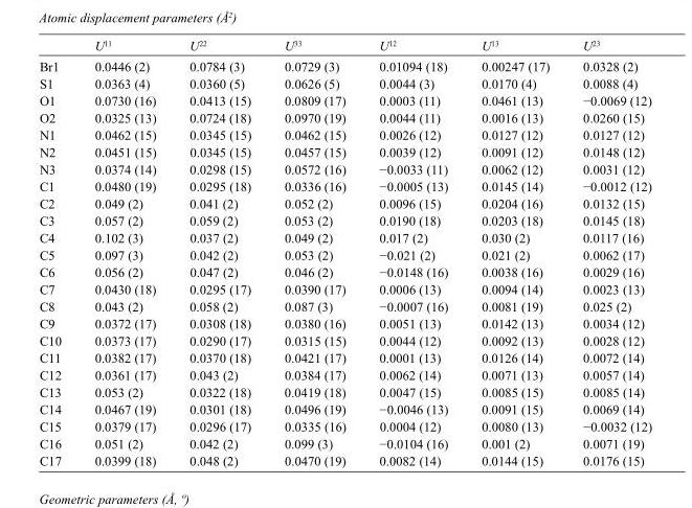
<table><thead><tr><td></td><td>U<sup>11</sup></td><td>U<sup>22</sup></td><td>U<sup>33</sup></td><td>U<sup>12</sup></td><td>U<sup>13</sup></td><td>U<sup>23</sup></td></tr></thead><tbody><tr><td>Br1</td><td>0.0446 (2)</td><td>0.0784 (3)</td><td>0.0729 (3)</td><td>0.01094 (18)</td><td>0.00247 (17)</td><td>0.0328 (2)</td></tr><tr><td>S1</td><td>0.0363 (4)</td><td>0.0360 (5)</td><td>0.0626 (5)</td><td>0.0044 (3)</td><td>0.0170 (4)</td><td>0.0088 (4)</td></tr><tr><td>O1</td><td>0.0730 (16)</td><td>0.0413 (15)</td><td>0.0809 (17)</td><td>0.0003 (11)</td><td>0.0461 (13)</td><td>−0.0069 (12)</td></tr><tr><td>O2</td><td>0.0325 (13)</td><td>0.0724 (18)</td><td>0.0970 (19)</td><td>0.0044 (11)</td><td>0.0016 (13)</td><td>0.0260 (15)</td></tr><tr><td>N1</td><td>0.0462 (15)</td><td>0.0345 (15)</td><td>0.0462 (15)</td><td>0.0026 (12)</td><td>0.0127 (12)</td><td>0.0127 (12)</td></tr><tr><td>N2</td><td>0.0451 (15)</td><td>0.0345 (15)</td><td>0.0457 (15)</td><td>0.0039 (12)</td><td>0.0091 (12)</td><td>0.0148 (12)</td></tr><tr><td>N3</td><td>0.0374 (14)</td><td>0.0298 (15)</td><td>0.0572 (16)</td><td>−0.0033 (11)</td><td>0.0062 (12)</td><td>0.0031 (12)</td></tr><tr><td>C1</td><td>0.0480 (19)</td><td>0.0295 (18)</td><td>0.0336 (16)</td><td>−0.0005 (13)</td><td>0.0145 (14)</td><td>−0.0012 (12)</td></tr><tr><td>C2</td><td>0.049 (2)</td><td>0.041 (2)</td><td>0.052 (2)</td><td>0.0096 (15)</td><td>0.0204 (16)</td><td>0.0132 (15)</td></tr><tr><td>C3</td><td>0.057 (2)</td><td>0.059 (2)</td><td>0.053 (2)</td><td>0.0190 (18)</td><td>0.0203 (18)</td><td>0.0145 (18)</td></tr><tr><td>C4</td><td>0.102 (3)</td><td>0.037 (2)</td><td>0.049 (2)</td><td>0.017 (2)</td><td>0.030 (2)</td><td>0.0117 (16)</td></tr><tr><td>C5</td><td>0.097 (3)</td><td>0.042 (2)</td><td>0.053 (2)</td><td>−0.021 (2)</td><td>0.021 (2)</td><td>0.0062 (17)</td></tr><tr><td>C6</td><td>0.056 (2)</td><td>0.047 (2)</td><td>0.046 (2)</td><td>−0.0148 (16)</td><td>0.0038 (16)</td><td>0.0029 (16)</td></tr><tr><td>C7</td><td>0.0430 (18)</td><td>0.0295 (17)</td><td>0.0390 (17)</td><td>0.0006 (13)</td><td>0.0094 (14)</td><td>0.0023 (13)</td></tr><tr><td>C8</td><td>0.043 (2)</td><td>0.058 (2)</td><td>0.087 (3)</td><td>−0.0007 (16)</td><td>0.0081 (19)</td><td>0.025 (2)</td></tr><tr><td>C9</td><td>0.0372 (17)</td><td>0.0308 (18)</td><td>0.0380 (16)</td><td>0.0051 (13)</td><td>0.0142 (13)</td><td>0.0034 (12)</td></tr><tr><td>C10</td><td>0.0373 (17)</td><td>0.0290 (17)</td><td>0.0315 (15)</td><td>0.0044 (12)</td><td>0.0092 (13)</td><td>0.0028 (12)</td></tr><tr><td>C11</td><td>0.0382 (17)</td><td>0.0370 (18)</td><td>0.0421 (17)</td><td>0.0001 (13)</td><td>0.0126 (14)</td><td>0.0072 (14)</td></tr><tr><td>C12</td><td>0.0361 (17)</td><td>0.043 (2)</td><td>0.0384 (17)</td><td>0.0062 (14)</td><td>0.0071 (13)</td><td>0.0057 (14)</td></tr><tr><td>C13</td><td>0.053 (2)</td><td>0.0322 (18)</td><td>0.0419 (18)</td><td>0.0047 (15)</td><td>0.0085 (15)</td><td>0.0085 (14)</td></tr><tr><td>C14</td><td>0.0467 (19)</td><td>0.0301 (18)</td><td>0.0496 (19)</td><td>−0.0046 (13)</td><td>0.0091 (15)</td><td>0.0069 (14)</td></tr><tr><td>C15</td><td>0.0379 (17)</td><td>0.0296 (17)</td><td>0.0335 (16)</td><td>0.0004 (12)</td><td>0.0080 (13)</td><td>−0.0032 (12)</td></tr><tr><td>C16</td><td>0.051 (2)</td><td>0.042 (2)</td><td>0.099 (3)</td><td>−0.0104 (16)</td><td>0.001 (2)</td><td>0.0071 (19)</td></tr><tr><td>C17</td><td>0.0399 (18)</td><td>0.048 (2)</td><td>0.0470 (19)</td><td>0.0082 (14)</td><td>0.0144 (15)</td><td>0.0176 (15)</td></tr></tbody></table>